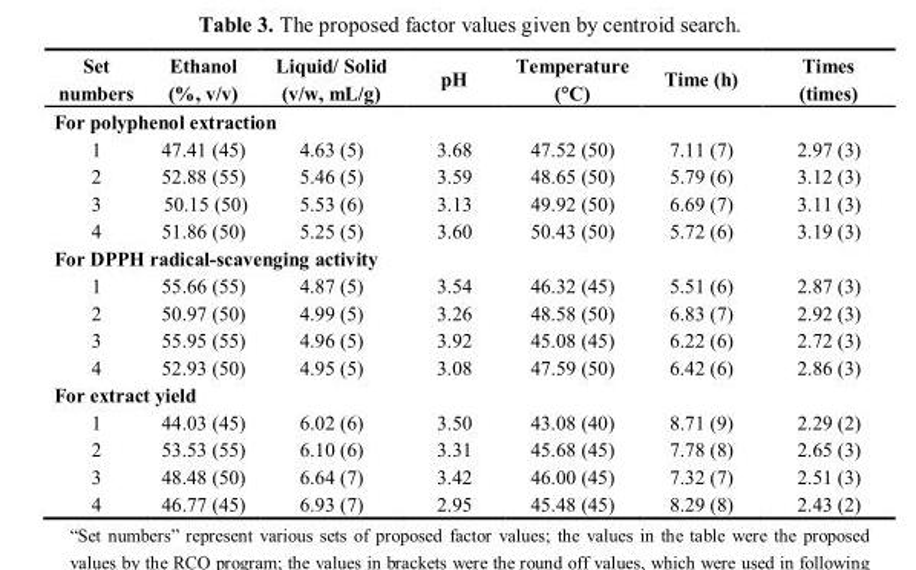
<table><thead><tr><td>Set numbers</td><td>Ethanol (%, v/v)</td><td>Liquid/ Solid (v/w, mL/g)</td><td>pH</td><td>Temperature (°C)</td><td>Time (h)</td><td>Times (times)</td></tr></thead><tbody><tr><td colspan="7">For polyphenol extraction</td></tr><tr><td>1</td><td>47.41 (45)</td><td>4.63 (5)</td><td>3.68</td><td>47.52 (50)</td><td>7.11 (7)</td><td>2.97 (3)</td></tr><tr><td>2</td><td>52.88 (55)</td><td>5.46 (5)</td><td>3.59</td><td>48.65 (50)</td><td>5.79 (6)</td><td>3.12 (3)</td></tr><tr><td>3</td><td>50.15 (50)</td><td>5.53 (6)</td><td>3.13</td><td>49.92 (50)</td><td>6.69 (7)</td><td>3.11 (3)</td></tr><tr><td>4</td><td>51.86 (50)</td><td>5.25 (5)</td><td>3.60</td><td>50.43 (50)</td><td>5.72 (6)</td><td>3.19 (3)</td></tr><tr><td colspan="7">For DPPH radical-scavenging activity</td></tr><tr><td>1</td><td>55.66 (55)</td><td>4.87 (5)</td><td>3.54</td><td>46.32 (45)</td><td>5.51 (6)</td><td>2.87 (3)</td></tr><tr><td>2</td><td>50.97 (50)</td><td>4.99 (5)</td><td>3.26</td><td>48.58 (50)</td><td>6.83 (7)</td><td>2.92 (3)</td></tr><tr><td>3</td><td>55.95 (55)</td><td>4.96 (5)</td><td>3.92</td><td>45.08 (45)</td><td>6.22 (6)</td><td>2.72 (3)</td></tr><tr><td>4</td><td>52.93 (50)</td><td>4.95 (5)</td><td>3.08</td><td>47.59 (50)</td><td>6.42 (6)</td><td>2.86 (3)</td></tr><tr><td colspan="7">For extract yield</td></tr><tr><td>1</td><td>44.03 (45)</td><td>6.02 (6)</td><td>3.50</td><td>43.08 (40)</td><td>8.71 (9)</td><td>2.29 (2)</td></tr><tr><td>2</td><td>53.53 (55)</td><td>6.10 (6)</td><td>3.31</td><td>45.68 (45)</td><td>7.78 (8)</td><td>2.65 (3)</td></tr><tr><td>3</td><td>48.48 (50)</td><td>6.64 (7)</td><td>3.42</td><td>46.00 (45)</td><td>7.32 (7)</td><td>2.51 (3)</td></tr><tr><td>4</td><td>46.77 (45)</td><td>6.93 (7)</td><td>2.95</td><td>45.48 (45)</td><td>8.29 (8)</td><td>2.43 (2)</td></tr></tbody></table>